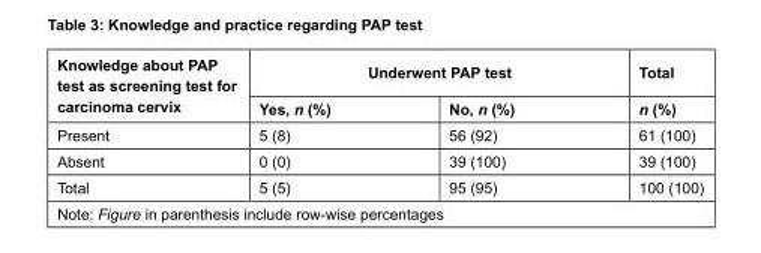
<table><thead><tr><td rowspan="2">Knowledge about PAP test as screening test for carcinoma cervix</td><td colspan="2">Underwent PAP test</td><td rowspan="2">Total n (%)</td></tr><tr><td>Yes, n (%)</td><td>No, n (%)</td></tr></thead><tbody><tr><td>Present</td><td>5 (8)</td><td>56 (92)</td><td>61 (100)</td></tr><tr><td>Absent</td><td>0 (0)</td><td>39 (100)</td><td>39 (100)</td></tr><tr><td>Total</td><td>5 (5)</td><td>95 (95)</td><td>100 (100)</td></tr></tbody></table>